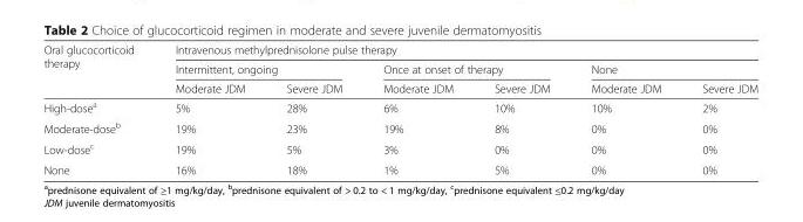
<table><thead><tr><td rowspan="3">Oral glucocorticoid therapy</td><td colspan="6">Intravenous methylprednisolone pulse therapy</td></tr><tr><td colspan="2">Intermittent, ongoing</td><td colspan="2">Once at onset of therapy</td><td colspan="2">None</td></tr><tr><td>Moderate JDM</td><td>Severe JDM</td><td>Moderate JDM</td><td>Severe JDM</td><td>Moderate JDM</td><td>Severe JDM</td></tr></thead><tbody><tr><td>High-dose<sup>a</sup></td><td>5%</td><td>28%</td><td>6%</td><td>10%</td><td>10%</td><td>2%</td></tr><tr><td>Moderate-dose<sup>b</sup></td><td>19%</td><td>23%</td><td>19%</td><td>8%</td><td>0%</td><td>0%</td></tr><tr><td>Low-dose<sup>c</sup></td><td>19%</td><td>5%</td><td>3%</td><td>0%</td><td>0%</td><td>0%</td></tr><tr><td>None</td><td>16%</td><td>18%</td><td>1%</td><td>5%</td><td>0%</td><td>0%</td></tr></tbody></table>